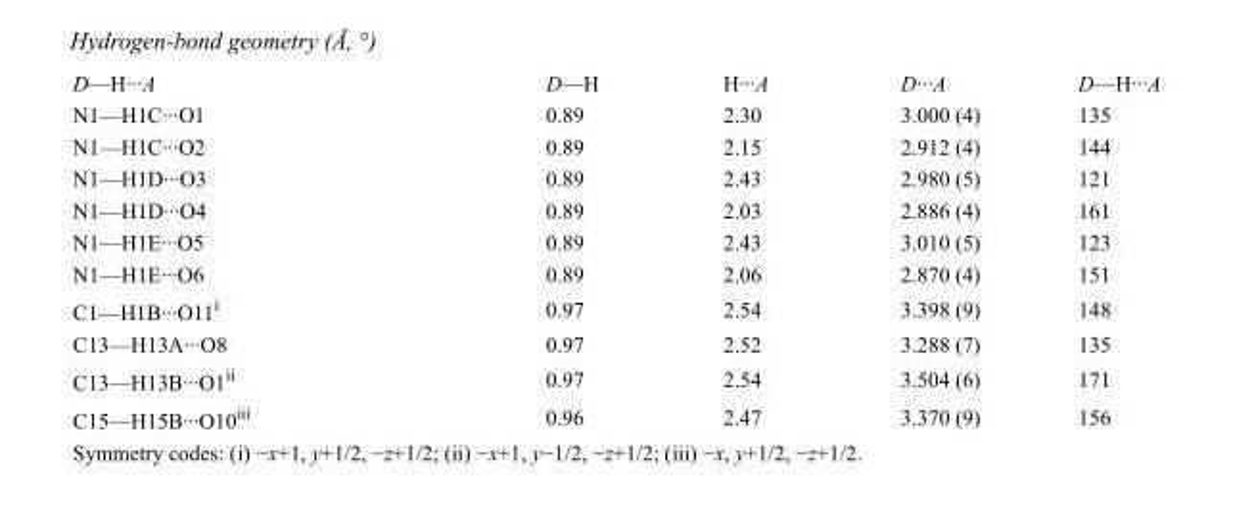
<table><tbody><tr><td>D—H···A</td><td>D—H</td><td>H···A</td><td>D···A</td><td>D—H···A</td></tr><tr><td>N1—H1C···O1</td><td>0.89</td><td>2.30</td><td>3.000 (4)</td><td>135</td></tr><tr><td>N1—H1C···O2</td><td>0.89</td><td>2.15</td><td>2.912 (4)</td><td>144</td></tr><tr><td>N1—H1D···O3</td><td>0.89</td><td>2.43</td><td>2.980 (5)</td><td>121</td></tr><tr><td>N1—H1D···O4</td><td>0.89</td><td>2.03</td><td>2.886 (4)</td><td>161</td></tr><tr><td>N1—H1E···O5</td><td>0.89</td><td>2.43</td><td>3.010 (5)</td><td>123</td></tr><tr><td>N1—H1E···O6</td><td>0.89</td><td>2.06</td><td>2.870 (4)</td><td>151</td></tr><tr><td>C1—H1B···O11<sup>i</sup></td><td>0.97</td><td>2.54</td><td>3.398 (9)</td><td>148</td></tr><tr><td>C13—H13A···O8</td><td>0.97</td><td>2.52</td><td>3.288 (7)</td><td>135</td></tr><tr><td>C13—H13B···O1<sup>ii</sup></td><td>0.97</td><td>2.54</td><td>3.504 (6)</td><td>171</td></tr><tr><td>C15—H15B···O10<sup>iii</sup></td><td>0.96</td><td>2.47</td><td>3.370 (9)</td><td>156</td></tr></tbody></table>